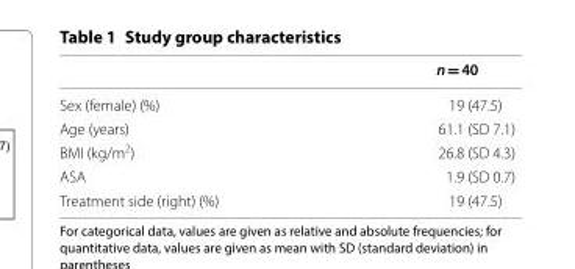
<table><thead><tr><td></td><td>n = 40</td></tr></thead><tbody><tr><td>Sex (female) (%)</td><td>19 (47.5)</td></tr><tr><td>Age (years)</td><td>61.1 (SD 7.1)</td></tr><tr><td>BMI (kg/m<sup>2</sup>)</td><td>26.8 (SD 4.3)</td></tr><tr><td>ASA</td><td>1.9 (SD 0.7)</td></tr><tr><td>Treatment side (right) (%)</td><td>19 (47.5)</td></tr></tbody></table>